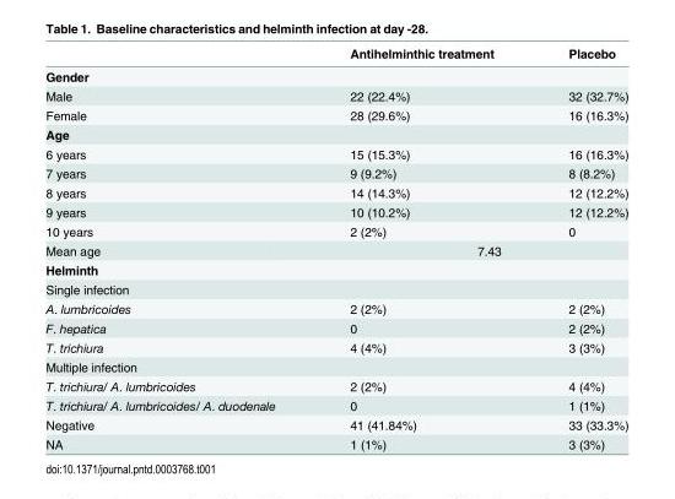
<table><thead><tr><td></td><td>Antihelminthic treatment</td><td>Placebo</td></tr></thead><tbody><tr><td colspan="3">Gender</td></tr><tr><td>Male</td><td>22 (22.4%)</td><td>32 (32.7%)</td></tr><tr><td>Female</td><td>28 (29.6%)</td><td>16 (16.3%)</td></tr><tr><td colspan="3">Age</td></tr><tr><td>6 years</td><td>15 (15.3%)</td><td>16 (16.3%)</td></tr><tr><td>7 years</td><td>9 (9.2%)</td><td>8 (8.2%)</td></tr><tr><td>8 years</td><td>14 (14.3%)</td><td>12 (12.2%)</td></tr><tr><td>9 years</td><td>10 (10.2%)</td><td>12 (12.2%)</td></tr><tr><td>10 years</td><td>2 (2%)</td><td>0</td></tr><tr><td>Mean age</td><td colspan="2">7.43</td></tr><tr><td colspan="3">Helminth</td></tr><tr><td colspan="3">Single infection</td></tr><tr><td>A. lumbricoides</td><td>2 (2%)</td><td>2 (2%)</td></tr><tr><td>F. hepatica</td><td>0</td><td>2 (2%)</td></tr><tr><td>T. trichiura</td><td>4 (4%)</td><td>3 (3%)</td></tr><tr><td colspan="3">Multiple infection</td></tr><tr><td>T. trichiura/ A. lumbricoides</td><td>2 (2%)</td><td>4 (4%)</td></tr><tr><td>T. trichiura/ A. lumbricoides/ A. duodenale</td><td>0</td><td>1 (1%)</td></tr><tr><td>Negative</td><td>41 (41.84%)</td><td>33 (33.3%)</td></tr><tr><td>NA</td><td>1 (1%)</td><td>3 (3%)</td></tr></tbody></table>